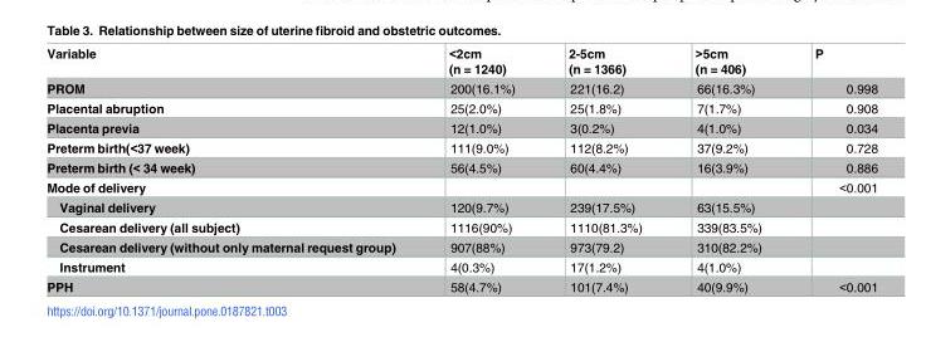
<table><thead><tr><td>Variable</td><td>&lt;2cm (n = 1240)</td><td>2-5cm (n = 1366)</td><td>&gt;5cm (n = 406)</td><td>P</td></tr></thead><tbody><tr><td>PROM</td><td>200(16.1%)</td><td>221(16.2)</td><td>66(16.3%)</td><td>0.998</td></tr><tr><td>Placental abruption</td><td>25(2.0%)</td><td>25(1.8%)</td><td>7(1.7%)</td><td>0.908</td></tr><tr><td>Placenta previa</td><td>12(1.0%)</td><td>3(0.2%)</td><td>4(1.0%)</td><td>0.034</td></tr><tr><td>Preterm birth(&lt;37 week)</td><td>111(9.0%)</td><td>112(8.2%)</td><td>37(9.2%)</td><td>0.728</td></tr><tr><td>Preterm birth (&lt; 34 week)</td><td>56(4.5%)</td><td>60(4.4%)</td><td>16(3.9%)</td><td>0.886</td></tr><tr><td>Mode of delivery</td><td></td><td></td><td></td><td>&lt;0.001</td></tr><tr><td>Vaginal delivery</td><td>120(9.7%)</td><td>239(17.5%)</td><td>63(15.5%)</td><td></td></tr><tr><td>Cesarean delivery (all subject)</td><td>1116(90%)</td><td>1110(81.3%)</td><td>339(83.5%)</td><td></td></tr><tr><td>Cesarean delivery (without only maternal request group)</td><td>907(88%)</td><td>973(79.2)</td><td>310(82.2%)</td><td></td></tr><tr><td>Instrument</td><td>4(0.3%)</td><td>17(1.2%)</td><td>4(1.0%)</td><td></td></tr><tr><td>PPH</td><td>58(4.7%)</td><td>101(7.4%)</td><td>40(9.9%)</td><td>&lt;0.001</td></tr></tbody></table>